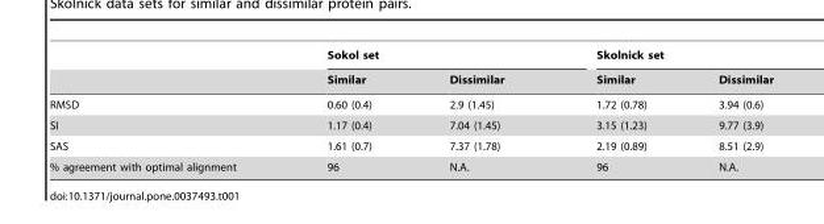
<table><thead><tr><td rowspan="2"></td><td colspan="2">Sokol set</td><td colspan="2">Skolnick set</td></tr><tr><td>Similar</td><td>Dissimilar</td><td>Similar</td><td>Dissimilar</td></tr></thead><tbody><tr><td>RMSD</td><td>0.60 (0.4)</td><td>2.9 (1.45)</td><td>1.72 (0.78)</td><td>3.94 (0.6)</td></tr><tr><td>SI</td><td>1.17 (0.4)</td><td>7.04 (1.45)</td><td>3.15 (1.23)</td><td>9.77 (3.9)</td></tr><tr><td>SAS</td><td>1.61 (0.7)</td><td>7.37 (1.78)</td><td>2.19 (0.89)</td><td>8.51 (2.9)</td></tr><tr><td>% agreement with optimal alignment</td><td>96</td><td>N.A.</td><td>96</td><td>N.A.</td></tr></tbody></table>